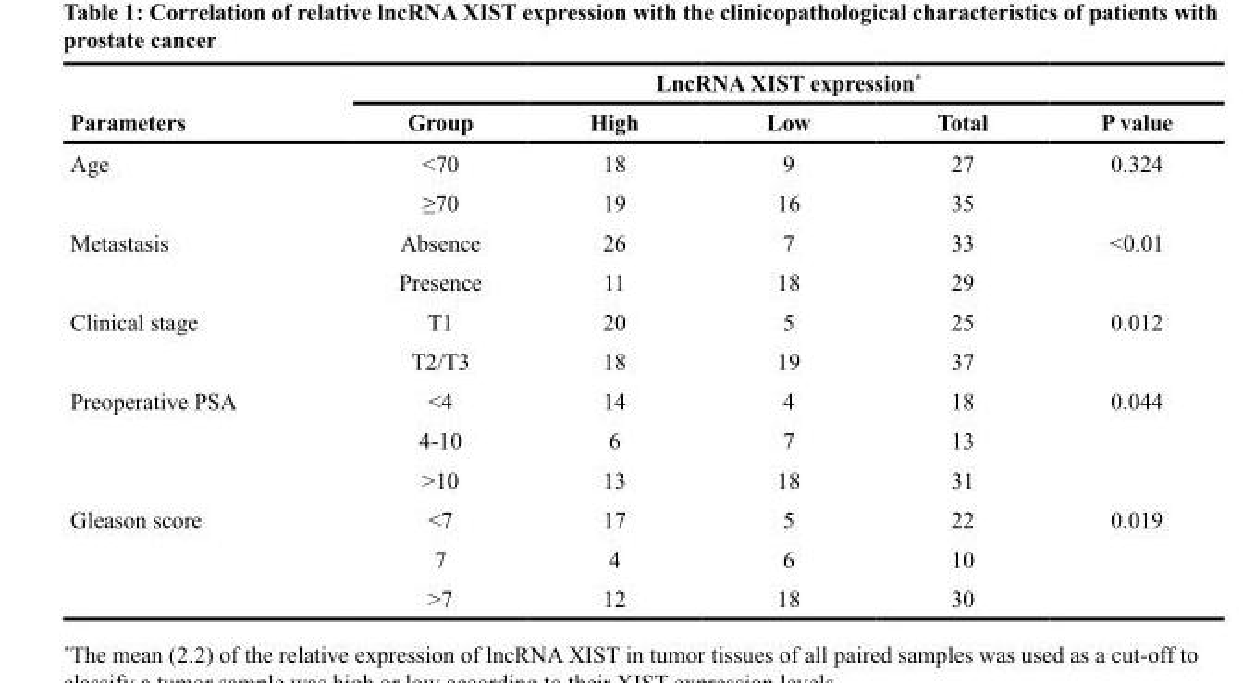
<table><thead><tr><td rowspan="2">Parameters</td><td colspan="5">LncRNA XIST expression*</td></tr><tr><td>Group</td><td>High</td><td>Low</td><td>Total</td><td>P value</td></tr></thead><tbody><tr><td rowspan="2">Age</td><td>&lt;70</td><td>18</td><td>9</td><td>27</td><td>0.324</td></tr><tr><td>≥70</td><td>19</td><td>16</td><td>35</td><td></td></tr><tr><td rowspan="2">Metastasis</td><td>Absence</td><td>26</td><td>7</td><td>33</td><td>&lt;0.01</td></tr><tr><td>Presence</td><td>11</td><td>18</td><td>29</td><td></td></tr><tr><td rowspan="2">Clinical stage</td><td>T1</td><td>20</td><td>5</td><td>25</td><td>0.012</td></tr><tr><td>T2/T3</td><td>18</td><td>19</td><td>37</td><td></td></tr><tr><td rowspan="3">Preoperative PSA</td><td>&lt;4</td><td>14</td><td>4</td><td>18</td><td>0.044</td></tr><tr><td>4-10</td><td>6</td><td>7</td><td>13</td><td></td></tr><tr><td>&gt;10</td><td>13</td><td>18</td><td>31</td><td></td></tr><tr><td rowspan="3">Gleason score</td><td>&lt;7</td><td>17</td><td>5</td><td>22</td><td>0.019</td></tr><tr><td>7</td><td>4</td><td>6</td><td>10</td><td></td></tr><tr><td>&gt;7</td><td>12</td><td>18</td><td>30</td><td></td></tr></tbody></table>